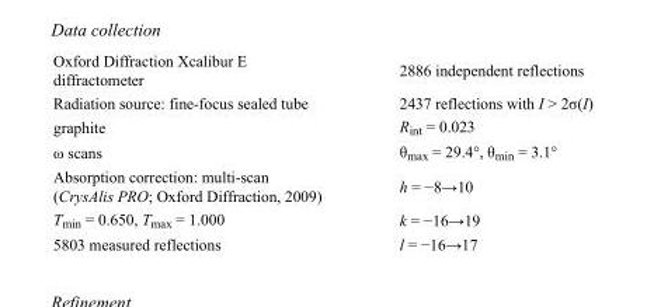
<table><tbody><tr><td>Oxford Diffraction Xcalibur E diffractometer</td><td>2886 independent reflections</td></tr><tr><td>Radiation source: fine-focus sealed tube</td><td>2437 reflections with I &gt; 2σ(I)</td></tr><tr><td>graphite</td><td>R<sub>int</sub> = 0.023</td></tr><tr><td>ω scans</td><td>θ<sub>max</sub> = 29.4°, θ<sub>min</sub> = 3.1°</td></tr><tr><td>Absorption correction: multi-scan (CrysAlis PRO; Oxford Diffraction, 2009)</td><td>h = −8→10</td></tr><tr><td>T<sub>min</sub> = 0.650, T<sub>max</sub> = 1.000</td><td>k = −16→19</td></tr><tr><td>5803 measured reflections</td><td>l = −16→17</td></tr></tbody></table>